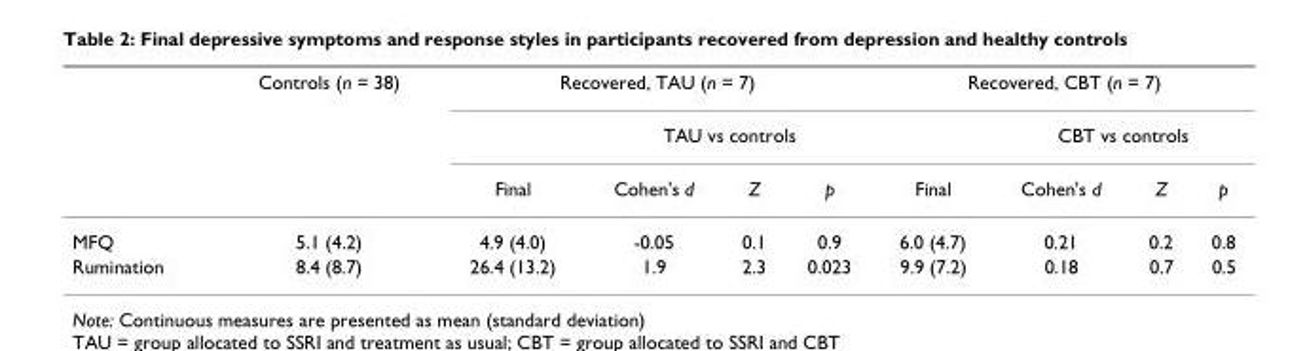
<table><thead><tr><td rowspan="3"></td><td rowspan="3">Controls (n = 38)</td><td colspan="4">Recovered, TAU (n = 7)</td><td colspan="4">Recovered, CBT (n = 7)</td></tr><tr><td rowspan="2">Final</td><td colspan="3">TAU vs controls</td><td rowspan="2">Final</td><td colspan="3">CBT vs controls</td></tr><tr><td>Cohen&#x27;s d</td><td>Z</td><td>p</td><td>Cohen&#x27;s d</td><td>Z</td><td>p</td></tr></thead><tbody><tr><td>MFQ</td><td>5.1 (4.2)</td><td>4.9 (4.0)</td><td>-0.05</td><td>0.1</td><td>0.9</td><td>6.0 (4.7)</td><td>0.21</td><td>0.2</td><td>0.8</td></tr><tr><td>Rumination</td><td>8.4 (8.7)</td><td>26.4 (13.2)</td><td>1.9</td><td>2.3</td><td>0.023</td><td>9.9 (7.2)</td><td>0.18</td><td>0.7</td><td>0.5</td></tr></tbody></table>